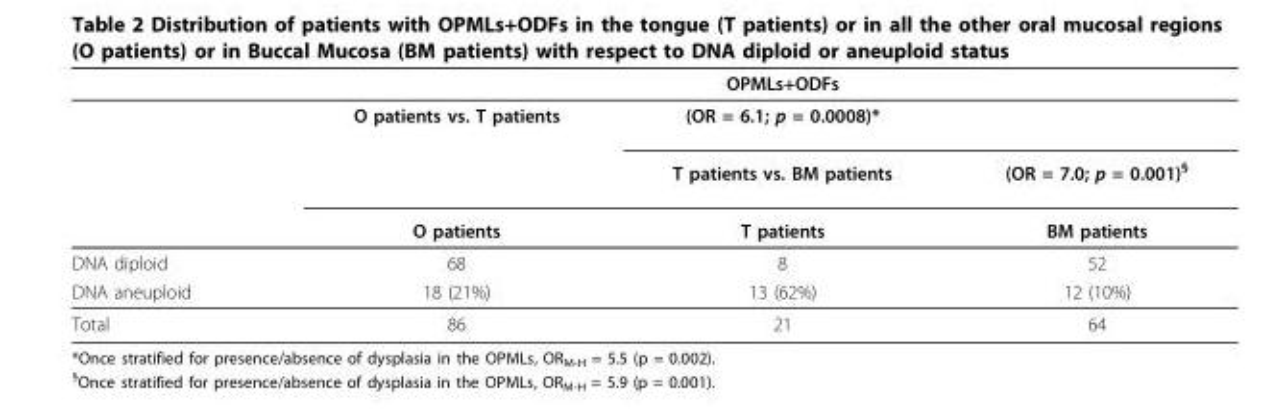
<table><thead><tr><td></td><td></td><td>OPMLs+ODFs</td><td></td></tr></thead><tbody><tr><td></td><td>O patients vs. T patients</td><td>(OR = 6.1; p = 0.0008)*</td><td></td></tr><tr><td></td><td></td><td>T patients vs. BM patients</td><td>(OR = 7.0; p = 0.001)<sup>§</sup></td></tr><tr><td></td><td>O patients</td><td>T patients</td><td>BM patients</td></tr><tr><td>DNA diploid</td><td>68</td><td>8</td><td>52</td></tr><tr><td>DNA aneuploid</td><td>18 (21%)</td><td>13 (62%)</td><td>12 (10%)</td></tr><tr><td>Total</td><td>86</td><td>21</td><td>64</td></tr></tbody></table>